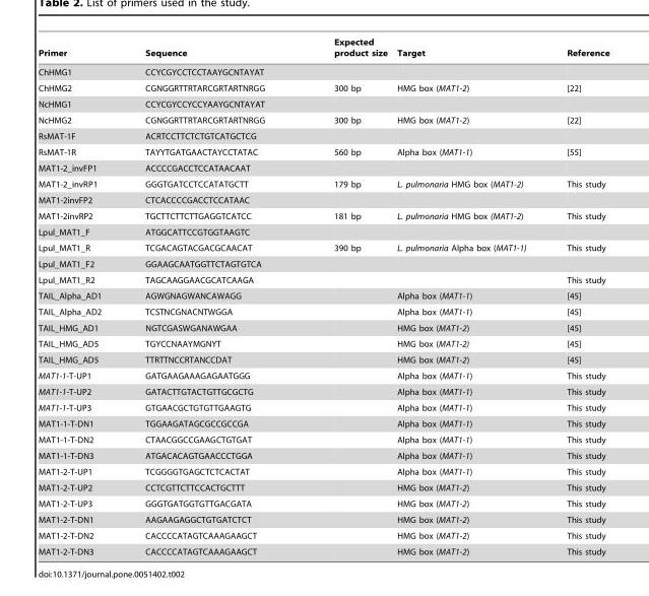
<table><thead><tr><td>Primer</td><td>Sequence</td><td>Expected product size</td><td>Target</td><td>Reference</td></tr></thead><tbody><tr><td>ChHMG1</td><td>CCYCGYCCTCCTAAYGCNTAYAT</td><td></td><td></td><td></td></tr><tr><td>ChHMG2</td><td>CGNGGRTTRTARCGRTARTNRGG</td><td>300 bp</td><td>HMG box (MAT1-2)</td><td>[22]</td></tr><tr><td>NcHMG1</td><td>CCYCGYCCYCCYAAYGCNTAYAT</td><td></td><td></td><td></td></tr><tr><td>NcHMG2</td><td>CGNGGRTTRTARCGRTARTNRGG</td><td>300 bp</td><td>HMG box (MAT1-2)</td><td>[22]</td></tr><tr><td>RsMAT-1F</td><td>ACRTCCTTCTCTGTCATGCTCG</td><td></td><td></td><td></td></tr><tr><td>RsMAT-1R</td><td>TAYYTGATGAACTAYCCTATAC</td><td>560 bp</td><td>Alpha box (MAT1-1)</td><td>[55]</td></tr><tr><td>MAT1-2_invFP1</td><td>ACCCCGACCTCCATAACAAT</td><td></td><td></td><td></td></tr><tr><td>MAT1-2_invRP1</td><td>GGGTGATCCTCCATATGCTT</td><td>179 bp</td><td>L. pulmonaria HMG box (MAT1-2)</td><td>This study</td></tr><tr><td>MAT1-2invFP2</td><td>CTCACCCCGACCTCCATAAC</td><td></td><td></td><td></td></tr><tr><td>MAT1-2invRP2</td><td>TGCTTCTTCTTGAGGTCATCC</td><td>181 bp</td><td>L. pulmonaria HMG box (MAT1-2)</td><td>This study</td></tr><tr><td>Lpul_MAT1_F</td><td>ATGGCATTCCGTGGTAAGTC</td><td></td><td></td><td></td></tr><tr><td>Lpul_MAT1_R</td><td>TCGACAGTACGACGCAACAT</td><td>390 bp</td><td>L. pulmonaria Alpha box (MAT1-1)</td><td>This study</td></tr><tr><td>Lpul_MAT1_F2</td><td>GGAAGCAATGGTTCTAGTGTCA</td><td></td><td></td><td></td></tr><tr><td>Lpul_MAT1_R2</td><td>TAGCAAGGAACGCATCAAGA</td><td></td><td></td><td>This study</td></tr><tr><td>TAIL_Alpha_AD1</td><td>AGWGNAGWANCAWAGG</td><td></td><td>Alpha box (MAT1-1)</td><td>[45]</td></tr><tr><td>TAIL_Alpha_AD2</td><td>TCSTNCGNACNTWGGA</td><td></td><td>Alpha box (MAT1-1)</td><td>[45]</td></tr><tr><td>TAIL_HMG_AD1</td><td>NGTCGASWGANAWGAA</td><td></td><td>HMG box (MAT1-2)</td><td>[45]</td></tr><tr><td>TAIL_HMG_AD5</td><td>TGYCCNAAYMGNYT</td><td></td><td>HMG box (MAT1-2)</td><td>[45]</td></tr><tr><td>TAIL_HMG_AD5</td><td>TTRTTNCCRTANCCDAT</td><td></td><td>HMG box (MAT1-2)</td><td>[45]</td></tr><tr><td>MAT1-1-T-UP1</td><td>GATGAAGAAAGAGAATGGG</td><td></td><td>Alpha box (MAT1-1)</td><td>This study</td></tr><tr><td>MAT1-1-T-UP2</td><td>GATACTTGTACTGTTGCGCTG</td><td></td><td>Alpha box (MAT1-1)</td><td>This study</td></tr><tr><td>MAT1-1-T-UP3</td><td>GTGAACGCTGTGTTGAAGTG</td><td></td><td>Alpha box (MAT1-1)</td><td>This study</td></tr><tr><td>MAT1-1-T-DN1</td><td>TGGAAGATAGCGCCGCCGA</td><td></td><td>Alpha box (MAT1-1)</td><td>This study</td></tr><tr><td>MAT1-1-T-DN2</td><td>CTAACGGCCGAAGCTGTGAT</td><td></td><td>Alpha box (MAT1-1)</td><td>This study</td></tr><tr><td>MAT1-1-T-DN3</td><td>ATGACACAGTGAACCCTGGA</td><td></td><td>Alpha box (MAT1-1)</td><td>This study</td></tr><tr><td>MAT1-2-T-UP1</td><td>TCGGGGTGAGCTCTCACTAT</td><td></td><td>Alpha box (MAT1-1)</td><td>This study</td></tr><tr><td>MAT1-2-T-UP2</td><td>CCTCGTTCTTCCACTGCTTT</td><td></td><td>HMG box (MAT1-2)</td><td>This study</td></tr><tr><td>MAT1-2-T-UP3</td><td>GGGTGATGGTGTTGACGATA</td><td></td><td>HMG box (MAT1-2)</td><td>This study</td></tr><tr><td>MAT1-2-T-DN1</td><td>AAGAAGAGGCTGTGATCTCT</td><td></td><td>HMG box (MAT1-2)</td><td>This study</td></tr><tr><td>MAT1-2-T-DN2</td><td>CACCCCATAGTCAAAGAAGCT</td><td></td><td>HMG box (MAT1-2)</td><td>This study</td></tr><tr><td>MAT1-2-T-DN3</td><td>CACCCCATAGTCAAAGAAGCT</td><td></td><td>HMG box (MAT1-2)</td><td>This study</td></tr></tbody></table>